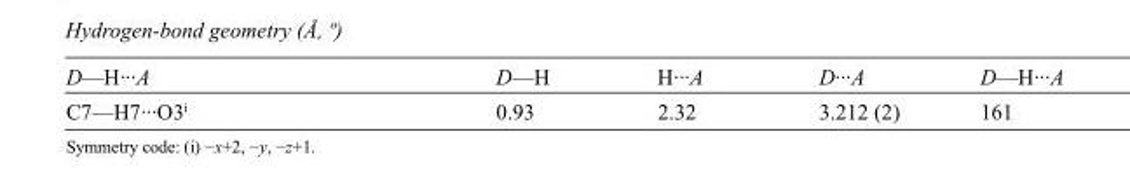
<table><tbody><tr><td>D—H···A</td><td>D—H</td><td>H···A</td><td>D···A</td><td>D—H···A</td></tr><tr><td>C7—H7···O3<sup>i</sup></td><td>0.93</td><td>2.32</td><td>3.212 (2)</td><td>161</td></tr></tbody></table>